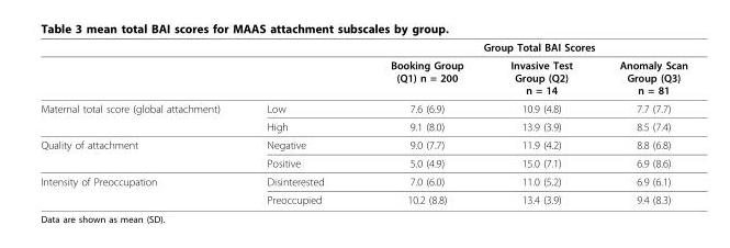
<table><thead><tr><td rowspan="2"></td><td rowspan="2"></td><td colspan="3">Group Total BAI Scores</td></tr><tr><td>Booking Group (Q1) n = 200</td><td>Invasive Test Group (Q2) n = 14</td><td>Anomaly Scan Group (Q3) n = 81</td></tr></thead><tbody><tr><td rowspan="2">Maternal total score (global attachment)</td><td>Low</td><td>7.6 (6.9)</td><td>10.9 (4.8)</td><td>7.7 (7.7)</td></tr><tr><td>High</td><td>9.1 (8.0)</td><td>13.9 (3.9)</td><td>8.5 (7.4)</td></tr><tr><td rowspan="2">Quality of attachment</td><td>Negative</td><td>9.0 (7.7)</td><td>11.9 (4.2)</td><td>8.8 (6.8)</td></tr><tr><td>Positive</td><td>5.0 (4.9)</td><td>15.0 (7.1)</td><td>6.9 (8.6)</td></tr><tr><td rowspan="2">Intensity of Preoccupation</td><td>Disinterested</td><td>7.0 (6.0)</td><td>11.0 (5.2)</td><td>6.9 (6.1)</td></tr><tr><td>Preoccupied</td><td>10.2 (8.8)</td><td>13.4 (3.9)</td><td>9.4 (8.3)</td></tr></tbody></table>